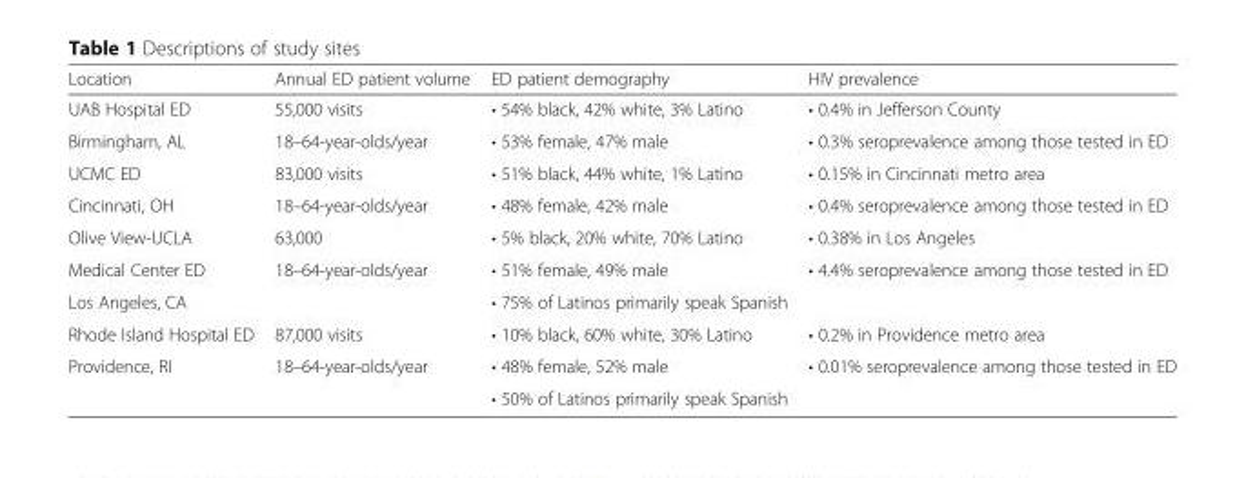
<table><thead><tr><td>Location</td><td>Annual ED patient volume</td><td>ED patient demography</td><td>HIV prevalence</td></tr></thead><tbody><tr><td>UAB Hospital ED</td><td>55,000 visits</td><td>• 54% black, 42% white, 3% Latino</td><td>• 0.4% in Jefferson County</td></tr><tr><td>Birmingham, AL</td><td>18–64-year-olds/year</td><td>• 53% female, 47% male</td><td>• 0.3% seroprevalence among those tested in ED</td></tr><tr><td>UCMC ED</td><td>83,000 visits</td><td>• 51% black, 44% white, 1% Latino</td><td>• 0.15% in Cincinnati metro area</td></tr><tr><td>Cincinnati, OH</td><td>18–64-year-olds/year</td><td>• 48% female, 42% male</td><td>• 0.4% seroprevalence among those tested in ED</td></tr><tr><td>Olive View-UCLA</td><td>63,000</td><td>• 5% black, 20% white, 70% Latino</td><td>• 0.38% in Los Angeles</td></tr><tr><td>Medical Center ED</td><td rowspan="2">18–64-year-olds/year</td><td>• 51% female, 49% male</td><td rowspan="2">• 4.4% seroprevalence among those tested in ED</td></tr><tr><td>Los Angeles, CA</td><td>• 75% of Latinos primarily speak Spanish</td></tr><tr><td>Rhode Island Hospital ED</td><td>87,000 visits</td><td>• 10% black, 60% white, 30% Latino</td><td>• 0.2% in Providence metro area</td></tr><tr><td rowspan="2">Providence, RI</td><td rowspan="2">18–64-year-olds/year</td><td>• 48% female, 52% male</td><td rowspan="2">• 0.01% seroprevalence among those tested in ED</td></tr><tr><td>• 50% of Latinos primarily speak Spanish</td></tr></tbody></table>